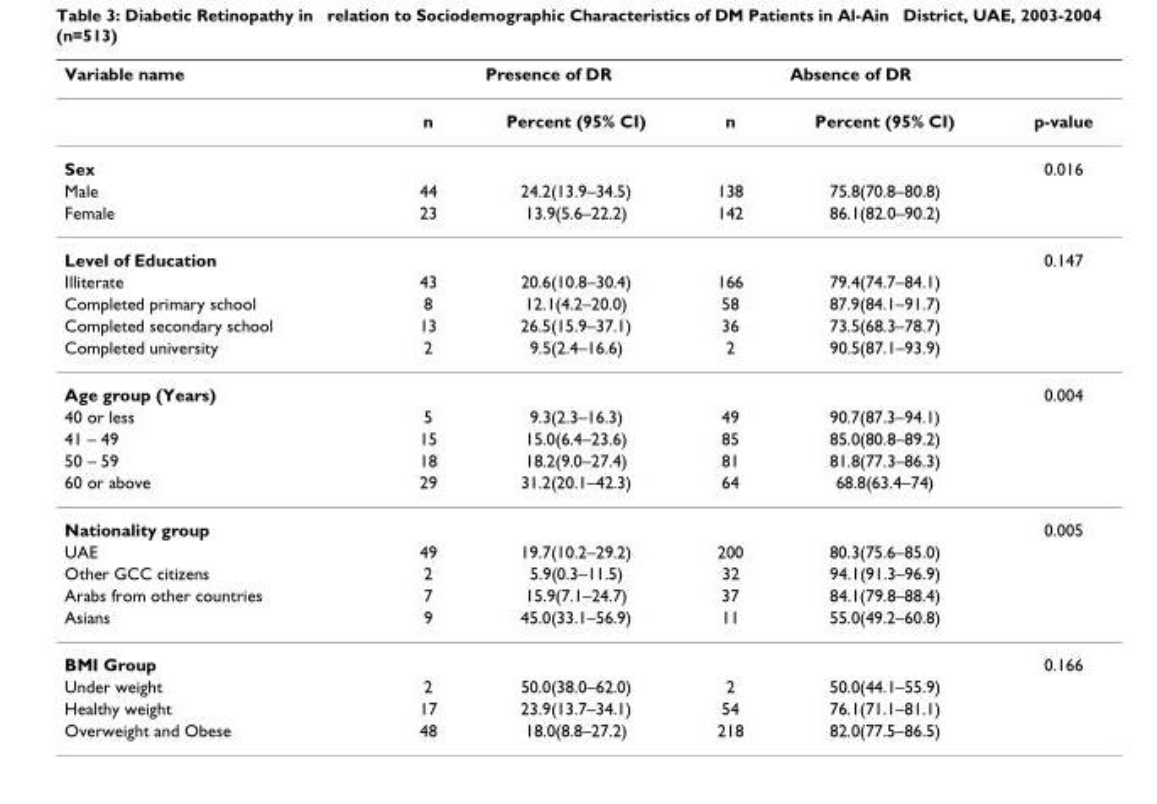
<table><thead><tr><td rowspan="2">Variable name</td><td colspan="2">Presence of DR</td><td colspan="2">Absence of DR</td><td rowspan="2">p-value</td></tr><tr><td>n</td><td>Percent (95% CI)</td><td>n</td><td>Percent (95% CI)</td></tr></thead><tbody><tr><td>Sex</td><td></td><td></td><td></td><td></td><td>0.016</td></tr><tr><td>Male</td><td>44</td><td>24.2(13.9–34.5)</td><td>138</td><td>75.8(70.8–80.8)</td><td></td></tr><tr><td>Female</td><td>23</td><td>13.9(5.6–22.2)</td><td>142</td><td>86.1(82.0–90.2)</td><td></td></tr><tr><td>Level of Education</td><td></td><td></td><td></td><td></td><td>0.147</td></tr><tr><td>Illiterate</td><td>43</td><td>20.6(10.8–30.4)</td><td>166</td><td>79.4(74.7–84.1)</td><td></td></tr><tr><td>Completed primary school</td><td>8</td><td>12.1(4.2–20.0)</td><td>58</td><td>87.9(84.1–91.7)</td><td></td></tr><tr><td>Completed secondary school</td><td>13</td><td>26.5(15.9–37.1)</td><td>36</td><td>73.5(68.3–78.7)</td><td></td></tr><tr><td>Completed university</td><td>2</td><td>9.5(2.4–16.6)</td><td>2</td><td>90.5(87.1–93.9)</td><td></td></tr><tr><td>Age group (Years)</td><td></td><td></td><td></td><td></td><td>0.004</td></tr><tr><td>40 or less</td><td>5</td><td>9.3(2.3–16.3)</td><td>49</td><td>90.7(87.3–94.1)</td><td></td></tr><tr><td>41 – 49</td><td>15</td><td>15.0(6.4–23.6)</td><td>85</td><td>85.0(80.8–89.2)</td><td></td></tr><tr><td>50 – 59</td><td>18</td><td>18.2(9.0–27.4)</td><td>81</td><td>81.8(77.3–86.3)</td><td></td></tr><tr><td>60 or above</td><td>29</td><td>31.2(20.1–42.3)</td><td>64</td><td>68.8(63.4–74)</td><td></td></tr><tr><td>Nationality group</td><td></td><td></td><td></td><td></td><td>0.005</td></tr><tr><td>UAE</td><td>49</td><td>19.7(10.2–29.2)</td><td>200</td><td>80.3(75.6–85.0)</td><td></td></tr><tr><td>Other GCC citizens</td><td>2</td><td>5.9(0.3–11.5)</td><td>32</td><td>94.1(91.3–96.9)</td><td></td></tr><tr><td>Arabs from other countries</td><td>7</td><td>15.9(7.1–24.7)</td><td>37</td><td>84.1(79.8–88.4)</td><td></td></tr><tr><td>Asians</td><td>9</td><td>45.0(33.1–56.9)</td><td>11</td><td>55.0(49.2–60.8)</td><td></td></tr><tr><td>BMI Group</td><td></td><td></td><td></td><td></td><td>0.166</td></tr><tr><td>Under weight</td><td>2</td><td>50.0(38.0–62.0)</td><td>2</td><td>50.0(44.1–55.9)</td><td></td></tr><tr><td>Healthy weight</td><td>17</td><td>23.9(13.7–34.1)</td><td>54</td><td>76.1(71.1–81.1)</td><td></td></tr><tr><td>Overweight and Obese</td><td>48</td><td>18.0(8.8–27.2)</td><td>218</td><td>82.0(77.5–86.5)</td><td></td></tr></tbody></table>